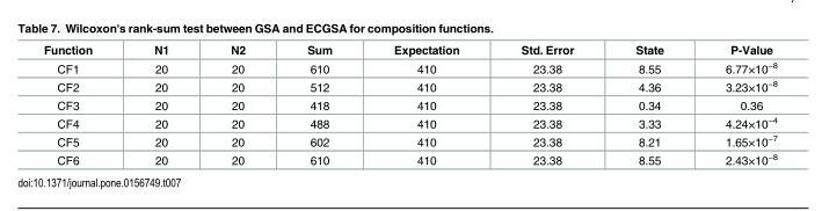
<table><thead><tr><td>Function</td><td>N1</td><td>N2</td><td>Sum</td><td>Expectation</td><td>Std. Error</td><td>State</td><td>P-Value</td></tr></thead><tbody><tr><td>CF1</td><td>20</td><td>20</td><td>610</td><td>410</td><td>23.38</td><td>8.55</td><td>6.77×10<sup>−8</sup></td></tr><tr><td>CF2</td><td>20</td><td>20</td><td>512</td><td>410</td><td>23.38</td><td>4.36</td><td>3.23×10<sup>−8</sup></td></tr><tr><td>CF3</td><td>20</td><td>20</td><td>418</td><td>410</td><td>23.38</td><td>0.34</td><td>0.36</td></tr><tr><td>CF4</td><td>20</td><td>20</td><td>488</td><td>410</td><td>23.38</td><td>3.33</td><td>4.24×10<sup>−4</sup></td></tr><tr><td>CF5</td><td>20</td><td>20</td><td>602</td><td>410</td><td>23.38</td><td>8.21</td><td>1.65×10<sup>−7</sup></td></tr><tr><td>CF6</td><td>20</td><td>20</td><td>610</td><td>410</td><td>23.38</td><td>8.55</td><td>2.43×10<sup>−8</sup></td></tr></tbody></table>